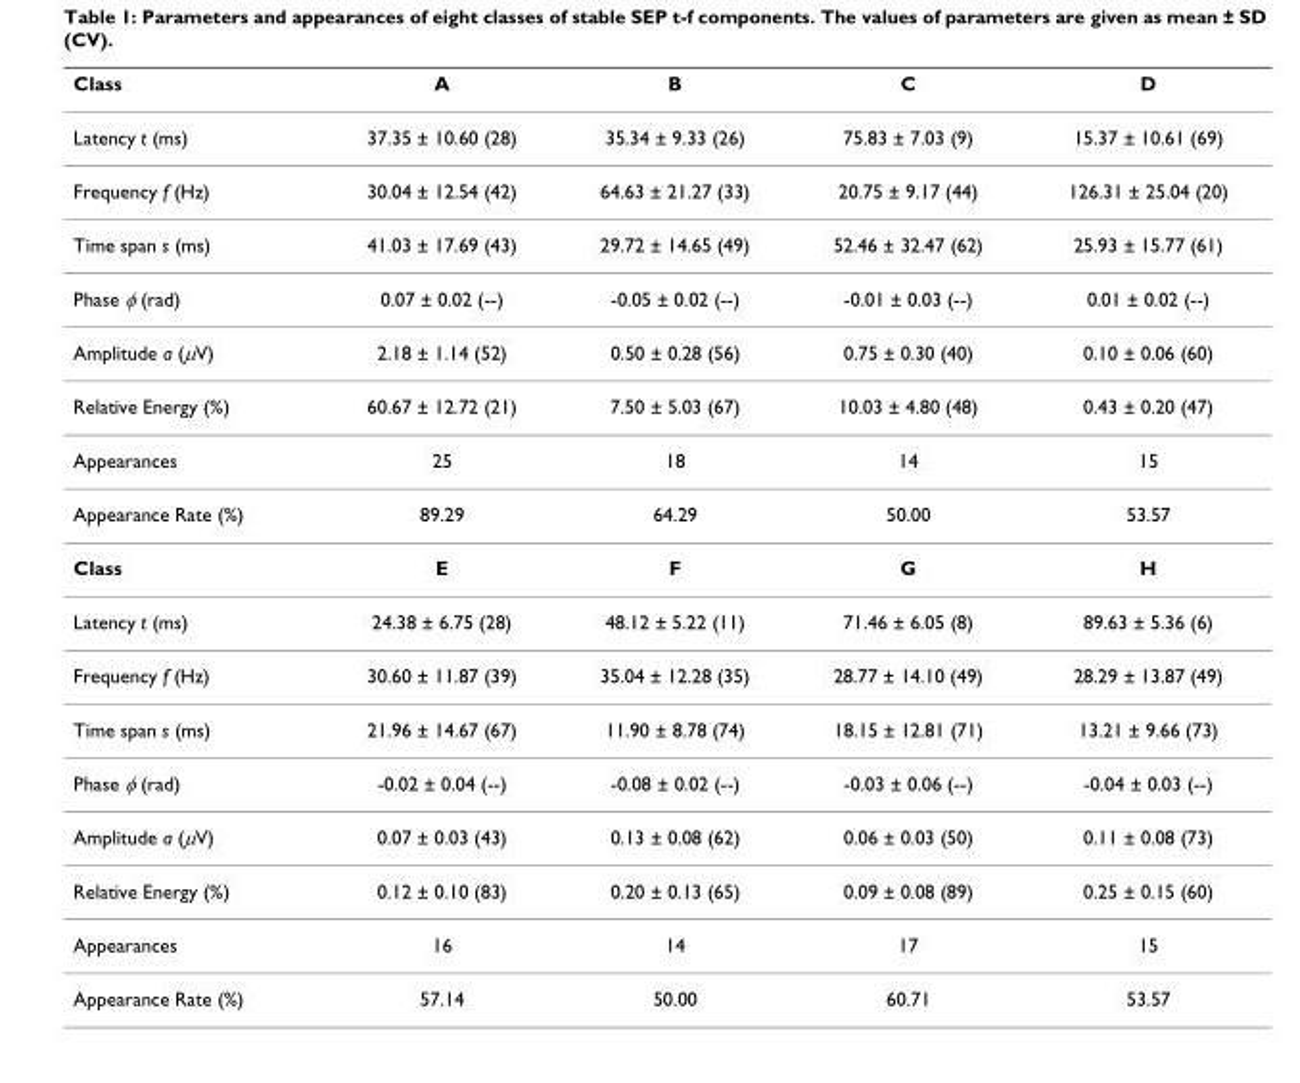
<table><thead><tr><td>Class</td><td>A</td><td>B</td><td>C</td><td>D</td></tr></thead><tbody><tr><td>Latency t (ms)</td><td>37.35 ± 10.60 (28)</td><td>35.34 ± 9.33 (26)</td><td>75.83 ± 7.03 (9)</td><td>15.37 ± 10.61 (69)</td></tr><tr><td>Frequency f (Hz)</td><td>30.04 ± 12.54 (42)</td><td>64.63 ± 21.27 (33)</td><td>20.75 ± 9.17 (44)</td><td>126.31 ± 25.04 (20)</td></tr><tr><td>Time span s (ms)</td><td>41.03 ± 17.69 (43)</td><td>29.72 ± 14.65 (49)</td><td>52.46 ± 32.47 (62)</td><td>25.93 ± 15.77 (61)</td></tr><tr><td>Phase φ (rad)</td><td>0.07 ± 0.02 (--)</td><td>-0.05 ± 0.02 (--)</td><td>-0.01 ± 0.03 (--)</td><td>0.01 ± 0.02 (--)</td></tr><tr><td>Amplitude a (μV)</td><td>2.18 ± 1.14 (52)</td><td>0.50 ± 0.28 (56)</td><td>0.75 ± 0.30 (40)</td><td>0.10 ± 0.06 (60)</td></tr><tr><td>Relative Energy (%)</td><td>60.67 ± 12.72 (21)</td><td>7.50 ± 5.03 (67)</td><td>10.03 ± 4.80 (48)</td><td>0.43 ± 0.20 (47)</td></tr><tr><td>Appearances</td><td>25</td><td>18</td><td>14</td><td>15</td></tr><tr><td>Appearance Rate (%)</td><td>89.29</td><td>64.29</td><td>50.00</td><td>53.57</td></tr><tr><td>Class</td><td>E</td><td>F</td><td>G</td><td>H</td></tr><tr><td>Latency t (ms)</td><td>24.38 ± 6.75 (28)</td><td>48.12 ± 5.22 (11)</td><td>71.46 ± 6.05 (8)</td><td>89.63 ± 5.36 (6)</td></tr><tr><td>Frequency f (Hz)</td><td>30.60 ± 11.87 (39)</td><td>35.04 ± 12.28 (35)</td><td>28.77 ± 14.10 (49)</td><td>28.29 ± 13.87 (49)</td></tr><tr><td>Time span s (ms)</td><td>21.96 ± 14.67 (67)</td><td>11.90 ± 8.78 (74)</td><td>18.15 ± 12.81 (71)</td><td>13.21 ± 9.66 (73)</td></tr><tr><td>Phase φ (rad)</td><td>-0.02 ± 0.04 (--)</td><td>-0.08 ± 0.02 (--)</td><td>-0.03 ± 0.06 (--)</td><td>-0.04 ± 0.03 (--)</td></tr><tr><td>Amplitude a (μV)</td><td>0.07 ± 0.03 (43)</td><td>0.13 ± 0.08 (62)</td><td>0.06 ± 0.03 (50)</td><td>0.11 ± 0.08 (73)</td></tr><tr><td>Relative Energy (%)</td><td>0.12 ± 0.10 (83)</td><td>0.20 ± 0.13 (65)</td><td>0.09 ± 0.08 (89)</td><td>0.25 ± 0.15 (60)</td></tr><tr><td>Appearances</td><td>16</td><td>14</td><td>17</td><td>15</td></tr><tr><td>Appearance Rate (%)</td><td>57.14</td><td>50.00</td><td>60.71</td><td>53.57</td></tr></tbody></table>